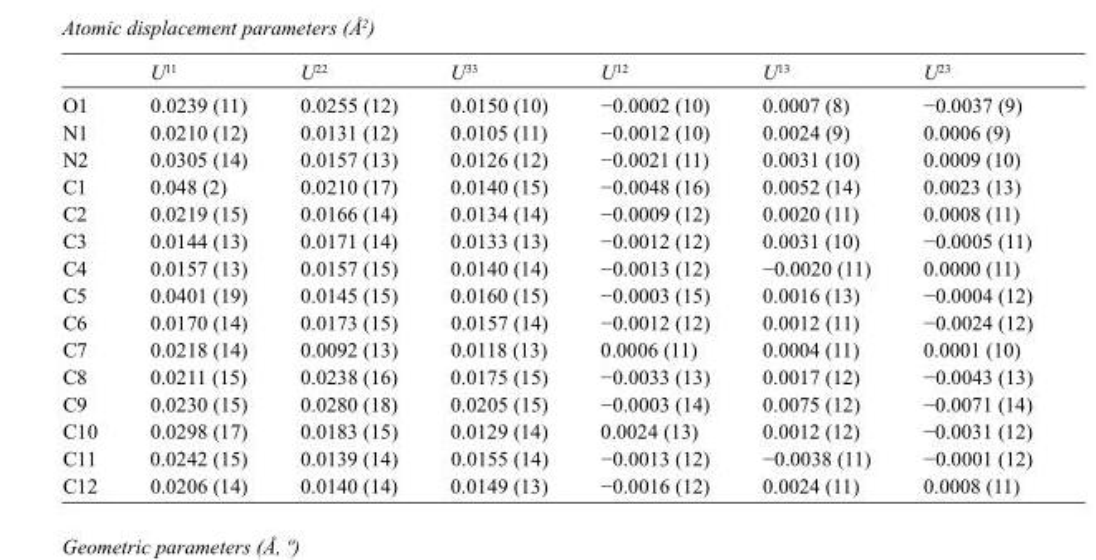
<table><thead><tr><td></td><td>U<sup>11</sup></td><td>U<sup>22</sup></td><td>U<sup>33</sup></td><td>U<sup>12</sup></td><td>U<sup>13</sup></td><td>U<sup>23</sup></td></tr></thead><tbody><tr><td>O1</td><td>0.0239 (11)</td><td>0.0255 (12)</td><td>0.0150 (10)</td><td>−0.0002 (10)</td><td>0.0007 (8)</td><td>−0.0037 (9)</td></tr><tr><td>N1</td><td>0.0210 (12)</td><td>0.0131 (12)</td><td>0.0105 (11)</td><td>−0.0012 (10)</td><td>0.0024 (9)</td><td>0.0006 (9)</td></tr><tr><td>N2</td><td>0.0305 (14)</td><td>0.0157 (13)</td><td>0.0126 (12)</td><td>−0.0021 (11)</td><td>0.0031 (10)</td><td>0.0009 (10)</td></tr><tr><td>C1</td><td>0.048 (2)</td><td>0.0210 (17)</td><td>0.0140 (15)</td><td>−0.0048 (16)</td><td>0.0052 (14)</td><td>0.0023 (13)</td></tr><tr><td>C2</td><td>0.0219 (15)</td><td>0.0166 (14)</td><td>0.0134 (14)</td><td>−0.0009 (12)</td><td>0.0020 (11)</td><td>0.0008 (11)</td></tr><tr><td>C3</td><td>0.0144 (13)</td><td>0.0171 (14)</td><td>0.0133 (13)</td><td>−0.0012 (12)</td><td>0.0031 (10)</td><td>−0.0005 (11)</td></tr><tr><td>C4</td><td>0.0157 (13)</td><td>0.0157 (15)</td><td>0.0140 (14)</td><td>−0.0013 (12)</td><td>−0.0020 (11)</td><td>0.0000 (11)</td></tr><tr><td>C5</td><td>0.0401 (19)</td><td>0.0145 (15)</td><td>0.0160 (15)</td><td>−0.0003 (15)</td><td>0.0016 (13)</td><td>−0.0004 (12)</td></tr><tr><td>C6</td><td>0.0170 (14)</td><td>0.0173 (15)</td><td>0.0157 (14)</td><td>−0.0012 (12)</td><td>0.0012 (11)</td><td>−0.0024 (12)</td></tr><tr><td>C7</td><td>0.0218 (14)</td><td>0.0092 (13)</td><td>0.0118 (13)</td><td>0.0006 (11)</td><td>0.0004 (11)</td><td>0.0001 (10)</td></tr><tr><td>C8</td><td>0.0211 (15)</td><td>0.0238 (16)</td><td>0.0175 (15)</td><td>−0.0033 (13)</td><td>0.0017 (12)</td><td>−0.0043 (13)</td></tr><tr><td>C9</td><td>0.0230 (15)</td><td>0.0280 (18)</td><td>0.0205 (15)</td><td>−0.0003 (14)</td><td>0.0075 (12)</td><td>−0.0071 (14)</td></tr><tr><td>C10</td><td>0.0298 (17)</td><td>0.0183 (15)</td><td>0.0129 (14)</td><td>0.0024 (13)</td><td>0.0012 (12)</td><td>−0.0031 (12)</td></tr><tr><td>C11</td><td>0.0242 (15)</td><td>0.0139 (14)</td><td>0.0155 (14)</td><td>−0.0013 (12)</td><td>−0.0038 (11)</td><td>−0.0001 (12)</td></tr><tr><td>C12</td><td>0.0206 (14)</td><td>0.0140 (14)</td><td>0.0149 (13)</td><td>−0.0016 (12)</td><td>0.0024 (11)</td><td>0.0008 (11)</td></tr></tbody></table>